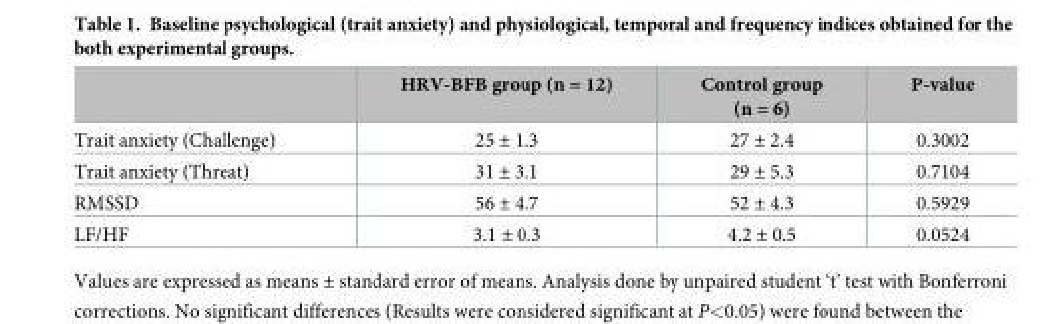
<table><thead><tr><td></td><td>HRV-BFB group (n = 12)</td><td>Control group (n = 6)</td><td>P-value</td></tr></thead><tbody><tr><td>Trait anxiety (Challenge)</td><td>25 ± 1.3</td><td>27 ± 2.4</td><td>0.3002</td></tr><tr><td>Trait anxiety (Threat)</td><td>31 ± 3.1</td><td>29 ± 5.3</td><td>0.7104</td></tr><tr><td>RMSSD</td><td>56 ± 4.7</td><td>52 ± 4.3</td><td>0.5929</td></tr><tr><td>LF/HF</td><td>3.1 ± 0.3</td><td>4.2 ± 0.5</td><td>0.0524</td></tr></tbody></table>